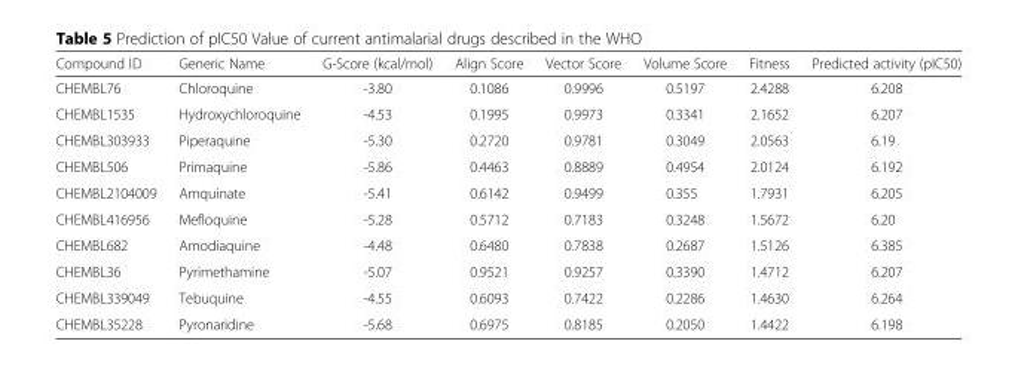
<table><thead><tr><td>Compound ID</td><td>Generic Name</td><td>G-Score (kcal/mol)</td><td>Align Score</td><td>Vector Score</td><td>Volume Score</td><td>Fitness</td><td>Predicted activity (pIC50)</td></tr></thead><tbody><tr><td>CHEMBL76</td><td>Chloroquine</td><td>-3.80</td><td>0.1086</td><td>0.9996</td><td>0.5197</td><td>2.4288</td><td>6.208</td></tr><tr><td>CHEMBL1535</td><td>Hydroxychloroquine</td><td>-4.53</td><td>0.1995</td><td>0.9973</td><td>0.3341</td><td>2.1652</td><td>6.207</td></tr><tr><td>CHEMBL303933</td><td>Piperaquine</td><td>-5.30</td><td>0.2720</td><td>0.9781</td><td>0.3049</td><td>2.0563</td><td>6.19</td></tr><tr><td>CHEMBL506</td><td>Primaquine</td><td>-5.86</td><td>0.4463</td><td>0.8889</td><td>0.4954</td><td>2.0124</td><td>6.192</td></tr><tr><td>CHEMBL2104009</td><td>Amquinate</td><td>-5.41</td><td>0.6142</td><td>0.9499</td><td>0.355</td><td>1.7931</td><td>6.205</td></tr><tr><td>CHEMBL416956</td><td>Mefloquine</td><td>-5.28</td><td>0.5712</td><td>0.7183</td><td>0.3248</td><td>1.5672</td><td>6.20</td></tr><tr><td>CHEMBL682</td><td>Amodiaquine</td><td>-4.48</td><td>0.6480</td><td>0.7838</td><td>0.2687</td><td>1.5126</td><td>6.385</td></tr><tr><td>CHEMBL36</td><td>Pyrimethamine</td><td>-5.07</td><td>0.9521</td><td>0.9257</td><td>0.3390</td><td>1.4712</td><td>6.207</td></tr><tr><td>CHEMBL339049</td><td>Tebuquine</td><td>-4.55</td><td>0.6093</td><td>0.7422</td><td>0.2286</td><td>1.4630</td><td>6.264</td></tr><tr><td>CHEMBL35228</td><td>Pyronaridine</td><td>-5.68</td><td>0.6975</td><td>0.8185</td><td>0.2050</td><td>1.4422</td><td>6.198</td></tr></tbody></table>